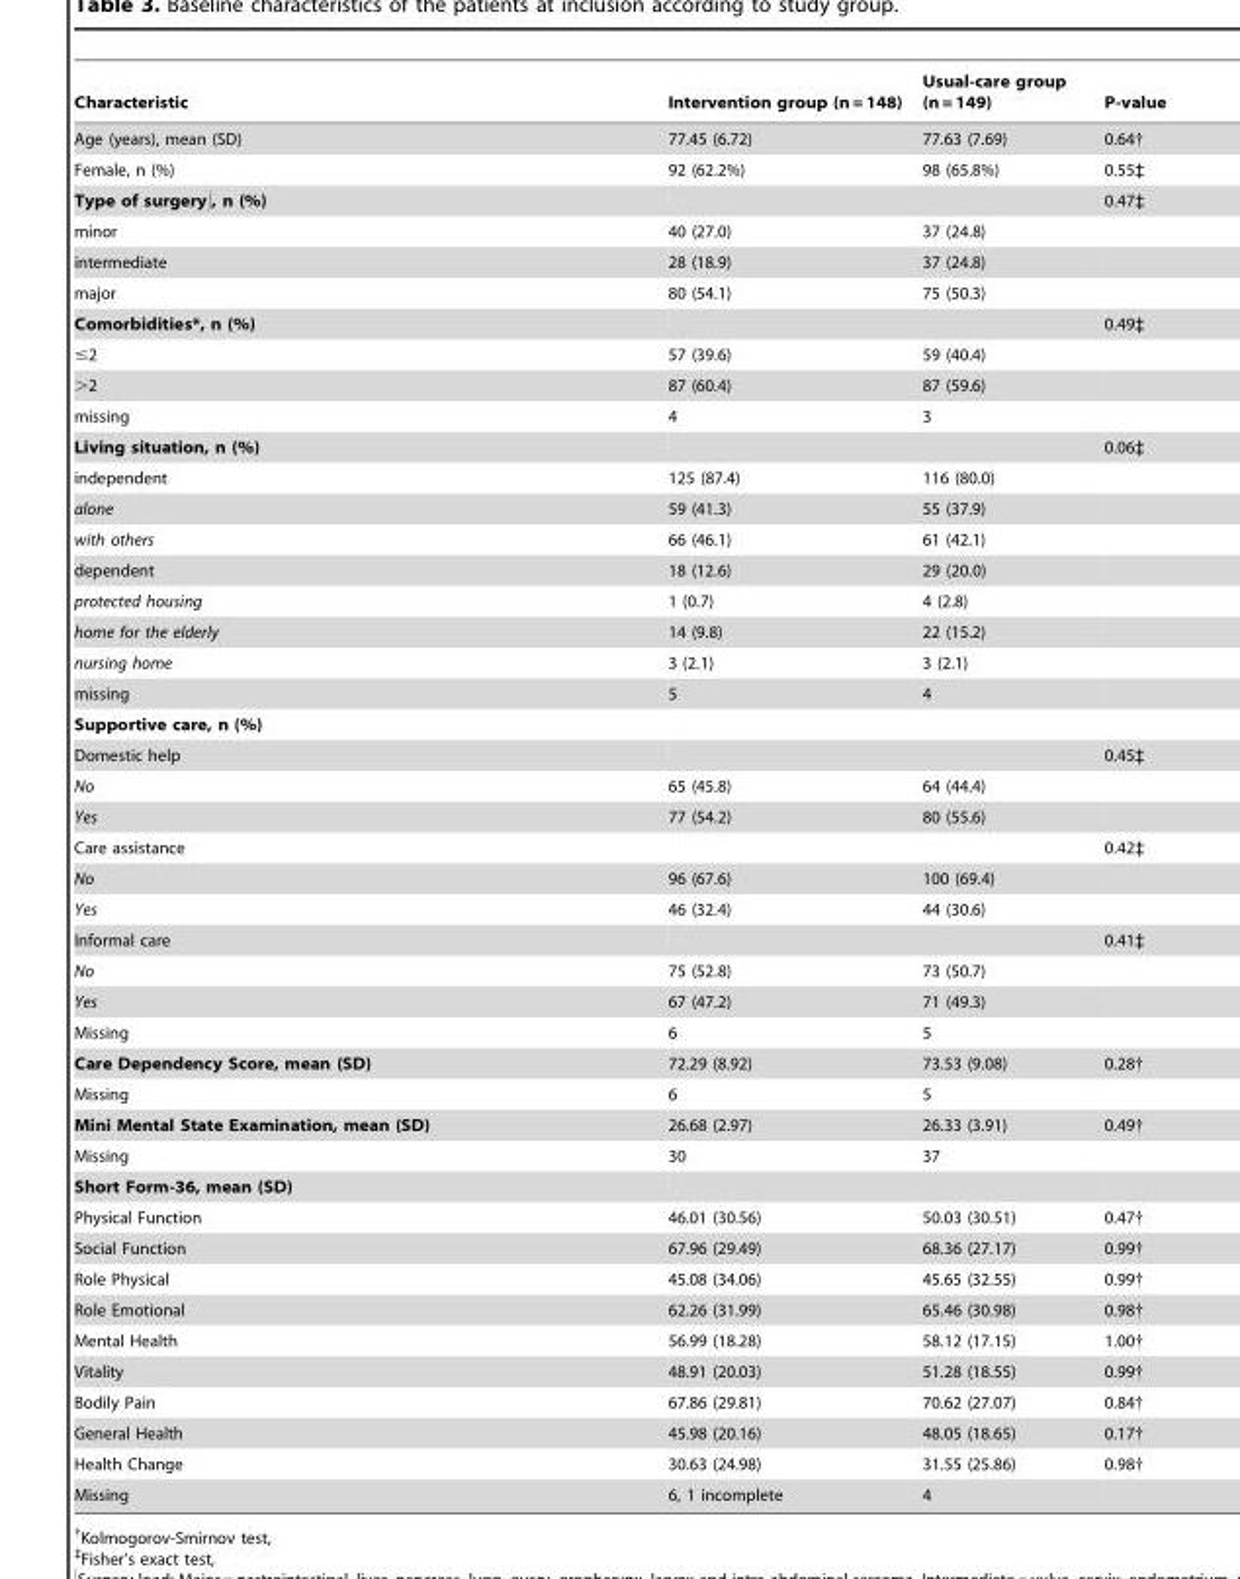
<table><thead><tr><td>Characteristic</td><td>Intervention group (n = 148)</td><td>Usual-care group (n = 149)</td><td>P-value</td></tr></thead><tbody><tr><td>Age (years), mean (SD)</td><td>77.45 (6.72)</td><td>77.63 (7.69)</td><td>0.64†</td></tr><tr><td>Female, n (%)</td><td>92 (62.2%)</td><td>98 (65.8%)</td><td>0.55‡</td></tr><tr><td>Type of surgery∫, n (%)</td><td></td><td></td><td>0.47‡</td></tr><tr><td>minor</td><td>40 (27.0)</td><td>37 (24.8)</td><td></td></tr><tr><td>intermediate</td><td>28 (18.9)</td><td>37 (24.8)</td><td></td></tr><tr><td>major</td><td>80 (54.1)</td><td>75 (50.3)</td><td></td></tr><tr><td>Comorbidities*, n (%)</td><td></td><td></td><td>0.49‡</td></tr><tr><td>≤2</td><td>57 (39.6)</td><td>59 (40.4)</td><td></td></tr><tr><td>&gt;2</td><td>87 (60.4)</td><td>87 (59.6)</td><td></td></tr><tr><td>missing</td><td>4</td><td>3</td><td></td></tr><tr><td>Living situation, n (%)</td><td></td><td></td><td>0.06‡</td></tr><tr><td>independent</td><td>125 (87.4)</td><td>116 (80.0)</td><td></td></tr><tr><td>alone</td><td>59 (41.3)</td><td>55 (37.9)</td><td></td></tr><tr><td>with others</td><td>66 (46.1)</td><td>61 (42.1)</td><td></td></tr><tr><td>dependent</td><td>18 (12.6)</td><td>29 (20.0)</td><td></td></tr><tr><td>protected housing</td><td>1 (0.7)</td><td>4 (2.8)</td><td></td></tr><tr><td>home for the elderly</td><td>14 (9.8)</td><td>22 (15.2)</td><td></td></tr><tr><td>nursing home</td><td>3 (2.1)</td><td>3 (2.1)</td><td></td></tr><tr><td>missing</td><td>5</td><td>4</td><td></td></tr><tr><td colspan="4">Supportive care, n (%)</td></tr><tr><td>Domestic help</td><td></td><td></td><td>0.45‡</td></tr><tr><td>No</td><td>65 (45.8)</td><td>64 (44.4)</td><td></td></tr><tr><td>Yes</td><td>77 (54.2)</td><td>80 (55.6)</td><td></td></tr><tr><td>Care assistance</td><td></td><td></td><td>0.42‡</td></tr><tr><td>No</td><td>96 (67.6)</td><td>100 (69.4)</td><td></td></tr><tr><td>Yes</td><td>46 (32.4)</td><td>44 (30.6)</td><td></td></tr><tr><td>Informal care</td><td></td><td></td><td>0.41‡</td></tr><tr><td>No</td><td>75 (52.8)</td><td>73 (50.7)</td><td></td></tr><tr><td>Yes</td><td>67 (47.2)</td><td>71 (49.3)</td><td></td></tr><tr><td>Missing</td><td>6</td><td>5</td><td></td></tr><tr><td>Care Dependency Score, mean (SD)</td><td>72.29 (8.92)</td><td>73.53 (9.08)</td><td>0.28†</td></tr><tr><td>Missing</td><td>6</td><td>5</td><td></td></tr><tr><td>Mini Mental State Examination, mean (SD)</td><td>26.68 (2.97)</td><td>26.33 (3.91)</td><td>0.49†</td></tr><tr><td>Missing</td><td>30</td><td>37</td><td></td></tr><tr><td colspan="4">Short Form-36, mean (SD)</td></tr><tr><td>Physical Function</td><td>46.01 (30.56)</td><td>50.03 (30.51)</td><td>0.47†</td></tr><tr><td>Social Function</td><td>67.96 (29.49)</td><td>68.36 (27.17)</td><td>0.99†</td></tr><tr><td>Role Physical</td><td>45.08 (34.06)</td><td>45.65 (32.55)</td><td>0.99†</td></tr><tr><td>Role Emotional</td><td>62.26 (31.99)</td><td>65.46 (30.98)</td><td>0.98†</td></tr><tr><td>Mental Health</td><td>56.99 (18.28)</td><td>58.12 (17.15)</td><td>1.00†</td></tr><tr><td>Vitality</td><td>48.91 (20.03)</td><td>51.28 (18.55)</td><td>0.99†</td></tr><tr><td>Bodily Pain</td><td>67.86 (29.81)</td><td>70.62 (27.07)</td><td>0.84†</td></tr><tr><td>General Health</td><td>45.98 (20.16)</td><td>48.05 (18.65)</td><td>0.17†</td></tr><tr><td>Health Change</td><td>30.63 (24.98)</td><td>31.55 (25.86)</td><td>0.98†</td></tr><tr><td>Missing</td><td>6, 1 incomplete</td><td>4</td><td></td></tr></tbody></table>